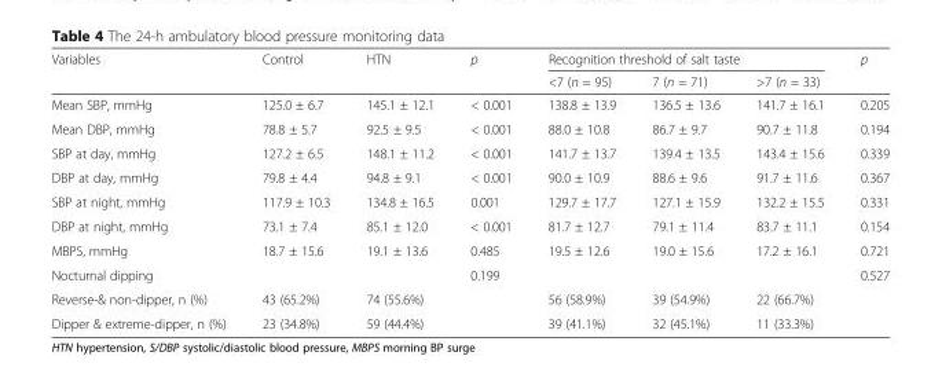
<table><thead><tr><td rowspan="2">Variables</td><td rowspan="2">Control</td><td rowspan="2">HTN</td><td rowspan="2">p</td><td colspan="3">Recognition threshold of salt taste</td><td rowspan="2">p</td></tr><tr><td>&lt;7 (n = 95)</td><td>7 (n = 71)</td><td>&gt;7 (n = 33)</td></tr></thead><tbody><tr><td>Mean SBP, mmHg</td><td>125.0 ± 6.7</td><td>145.1 ± 12.1</td><td>&lt; 0.001</td><td>138.8 ± 13.9</td><td>136.5 ± 13.6</td><td>141.7 ± 16.1</td><td>0.205</td></tr><tr><td>Mean DBP, mmHg</td><td>78.8 ± 5.7</td><td>92.5 ± 9.5</td><td>&lt; 0.001</td><td>88.0 ± 10.8</td><td>86.7 ± 9.7</td><td>90.7 ± 11.8</td><td>0.194</td></tr><tr><td>SBP at day, mmHg</td><td>127.2 ± 6.5</td><td>148.1 ± 11.2</td><td>&lt; 0.001</td><td>141.7 ± 13.7</td><td>139.4 ± 13.5</td><td>143.4 ± 15.6</td><td>0.339</td></tr><tr><td>DBP at day, mmHg</td><td>79.8 ± 4.4</td><td>94.8 ± 9.1</td><td>&lt; 0.001</td><td>90.0 ± 10.9</td><td>88.6 ± 9.6</td><td>91.7 ± 11.6</td><td>0.367</td></tr><tr><td>SBP at night, mmHg</td><td>117.9 ± 10.3</td><td>134.8 ± 16.5</td><td>0.001</td><td>129.7 ± 17.7</td><td>127.1 ± 15.9</td><td>132.2 ± 15.5</td><td>0.331</td></tr><tr><td>DBP at night, mmHg</td><td>73.1 ± 7.4</td><td>85.1 ± 12.0</td><td>&lt; 0.001</td><td>81.7 ± 12.7</td><td>79.1 ± 11.4</td><td>83.7 ± 11.1</td><td>0.154</td></tr><tr><td>MBPS, mmHg</td><td>18.7 ± 15.6</td><td>19.1 ± 13.6</td><td>0.485</td><td>19.5 ± 12.6</td><td>19.0 ± 15.6</td><td>17.2 ± 16.1</td><td>0.721</td></tr><tr><td>Nocturnal dipping</td><td></td><td></td><td>0.199</td><td></td><td></td><td></td><td>0.527</td></tr><tr><td>Reverse-&amp; non-dipper, n (%)</td><td>43 (65.2%)</td><td>74 (55.6%)</td><td></td><td>56 (58.9%)</td><td>39 (54.9%)</td><td>22 (66.7%)</td><td></td></tr><tr><td>Dipper &amp; extreme-dipper, n (%)</td><td>23 (34.8%)</td><td>59 (44.4%)</td><td></td><td>39 (41.1%)</td><td>32 (45.1%)</td><td>11 (33.3%)</td><td></td></tr></tbody></table>